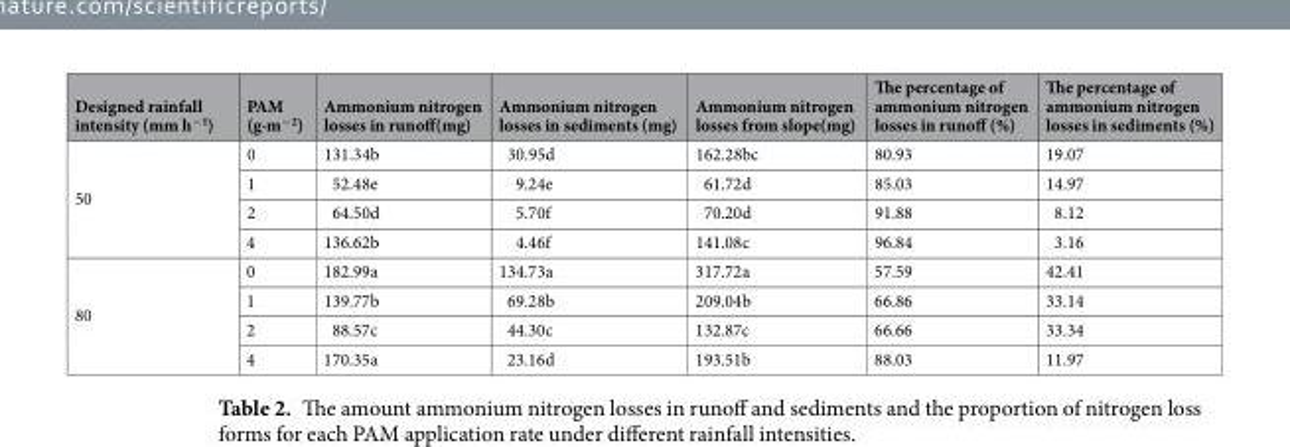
<table><thead><tr><td>Designed rainfall intensity (mm h<sup>−1</sup>)</td><td>PAM (g·m<sup>−2</sup>)</td><td>Ammonium nitrogen losses in runoff(mg)</td><td>Ammonium nitrogen losses in sediments (mg)</td><td>Ammonium nitrogen losses from slope(mg)</td><td>The percentage of ammonium nitrogen losses in runoff (%)</td><td>The percentage of ammonium nitrogen losses in sediments (%)</td></tr></thead><tbody><tr><td rowspan="4">50</td><td>0</td><td>131.34b</td><td>30.95d</td><td>162.28bc</td><td>80.93</td><td>19.07</td></tr><tr><td>1</td><td>52.48e</td><td>9.24e</td><td>61.72d</td><td>85.03</td><td>14.97</td></tr><tr><td>2</td><td>64.50d</td><td>5.70f</td><td>70.20d</td><td>91.88</td><td>8.12</td></tr><tr><td>4</td><td>136.62b</td><td>4.46f</td><td>141.08c</td><td>96.84</td><td>3.16</td></tr><tr><td rowspan="4">80</td><td>0</td><td>182.99a</td><td>134.73a</td><td>317.72a</td><td>57.59</td><td>42.41</td></tr><tr><td>1</td><td>139.77b</td><td>69.28b</td><td>209.04b</td><td>66.86</td><td>33.14</td></tr><tr><td>2</td><td>88.57c</td><td>44.30c</td><td>132.87c</td><td>66.66</td><td>33.34</td></tr><tr><td>4</td><td>170.35a</td><td>23.16d</td><td>193.51b</td><td>88.03</td><td>11.97</td></tr></tbody></table>